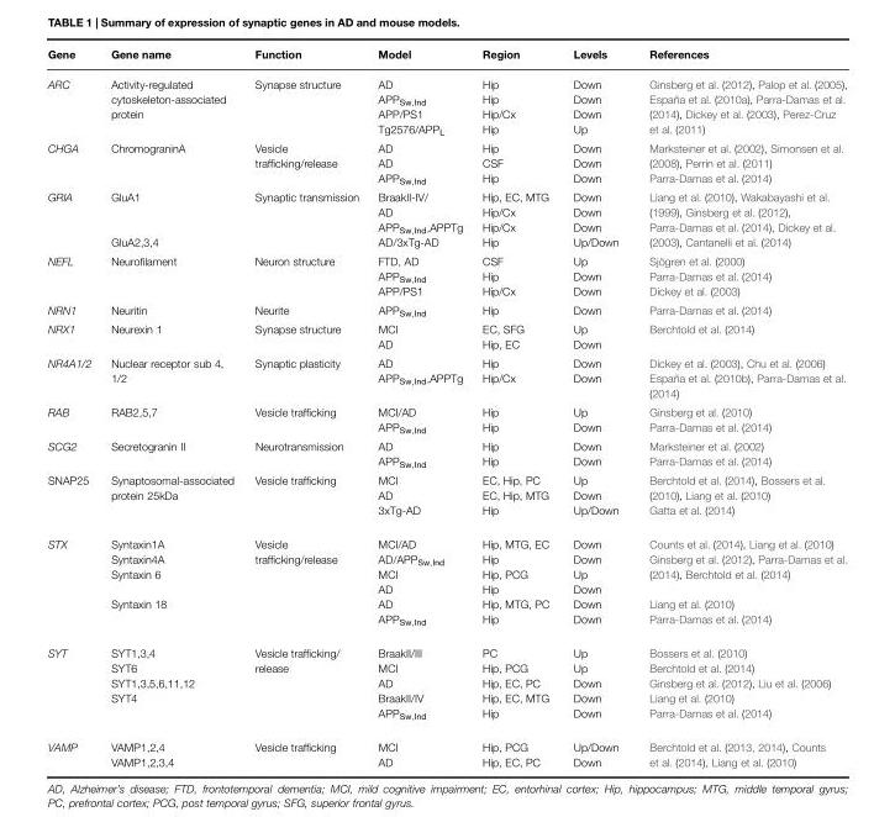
<table><thead><tr><td>Gene</td><td>Gene name</td><td>Function</td><td>Model</td><td>Region</td><td>Levels</td><td>References</td></tr></thead><tbody><tr><td>ARC</td><td>Activity-regulated cytoskeleton-associated protein</td><td>Synapse structure</td><td>AD APP<sub>Sw,Ind</sub> APP/PS1 Tg2576/APP<sub>L</sub></td><td>Hip Hip Hip/Cx Hip</td><td>Down Down Down Up</td><td>Ginsberg et al. (2012), Palop et al. (2005), España et al. (2010a), Parra-Damas et al. (2014), Dickey et al. (2003), Perez-Cruz et al. (2011)</td></tr><tr><td>CHGA</td><td>ChromograninA</td><td>Vesicle trafficking/release</td><td>AD AD APP<sub>Sw,Ind</sub></td><td>Hip CSF Hip</td><td>Down Down Down</td><td>Marksteiner et al. (2002), Simonsen et al. (2008), Perrin et al. (2011) Parra-Damas et al. (2014)</td></tr><tr><td>GRIA</td><td>GluA1 GluA2,3,4</td><td>Synaptic transmission</td><td>BraakII-IV/ AD APP<sub>Sw,Ind</sub>,APPTg AD/3xTg-AD</td><td>Hip, EC, MTG Hip/Cx Hip/Cx Hip</td><td>Down Down Down Up/Down</td><td>Liang et al. (2010), Wakabayashi et al. (1999), Ginsberg et al. (2012), Parra-Damas et al. (2014), Dickey et al. (2003), Cantanelli et al. (2014)</td></tr><tr><td>NEFL</td><td>Neurofilament</td><td>Neuron structure</td><td>FTD, AD APP<sub>Sw,Ind</sub> APP/PS1</td><td>CSF Hip Hip/Cx</td><td>Up Down Down</td><td>Sjögren et al. (2000) Parra-Damas et al. (2014) Dickey et al. (2003)</td></tr><tr><td>NRN1</td><td>Neuritin</td><td>Neurite</td><td>APP<sub>Sw,Ind</sub></td><td>Hip</td><td>Down</td><td>Parra-Damas et al. (2014)</td></tr><tr><td>NRX1</td><td>Neurexin 1</td><td>Synapse structure</td><td>MCI AD</td><td>EC, SFG Hip, EC</td><td>Up Down</td><td>Berchtold et al. (2014)</td></tr><tr><td>NR4A1/2</td><td>Nuclear receptor sub 4, 1/2</td><td>Synaptic plasticity</td><td>AD APP<sub>Sw,Ind</sub>,APPTg</td><td>Hip Hip/Cx</td><td>Down Down</td><td>Dickey et al. (2003), Chu et al. (2006) España et al. (2010b), Parra-Damas et al. (2014)</td></tr><tr><td>RAB</td><td>RAB2,5,7</td><td>Vesicle trafficking</td><td>MCI/AD APP<sub>Sw,Ind</sub></td><td>Hip Hip</td><td>Up Down</td><td>Ginsberg et al. (2010) Parra-Damas et al. (2014)</td></tr><tr><td>SCG2</td><td>Secretogranin II</td><td>Neurotransmission</td><td>AD APP<sub>Sw,Ind</sub></td><td>Hip Hip</td><td>Down Down</td><td>Marksteiner et al. (2002) Parra-Damas et al. (2014)</td></tr><tr><td>SNAP25</td><td>Synaptosomal-associated protein 25kDa</td><td>Vesicle trafficking</td><td>MCI AD 3xTg-AD</td><td>EC, Hip, PC EC, Hip, MTG Hip</td><td>Up Down Up/Down</td><td>Berchtold et al. (2014), Bossers et al. (2010), Liang et al. (2010) Gatta et al. (2014)</td></tr><tr><td>STX</td><td>Syntaxin1A Syntaxin4A Syntaxin 6 Syntaxin 18</td><td>Vesicle trafficking/release</td><td>MCI/AD AD/APP<sub>Sw,Ind</sub> MCI AD AD APP<sub>Sw,Ind</sub></td><td>Hip, MTG, EC Hip Hip, PCG Hip Hip, MTG, PC Hip</td><td>Down Down Up Down Down Down</td><td>Counts et al. (2014), Liang et al. (2010) Ginsberg et al. (2012), Parra-Damas et al. (2014), Berchtold et al. (2014) Liang et al. (2010) Parra-Damas et al. (2014)</td></tr><tr><td>SYT</td><td>SYT1,3,4 SYT6 SYT1,3,5,6,11,12 SYT4</td><td>Vesicle trafficking/ release</td><td>BraakII/III MCI AD BraakII/IV APP<sub>Sw,Ind</sub></td><td>PC Hip, PCG Hip, EC, PC Hip, EC, MTG Hip</td><td>Up Up Down Down Down</td><td>Bossers et al. (2010) Berchtold et al. (2014) Ginsberg et al. (2012), Liu et al. (2006) Liang et al. (2010) Parra-Damas et al. (2014)</td></tr><tr><td>VAMP</td><td>VAMP1,2,4 VAMP1,2,3,4</td><td>Vesicle trafficking</td><td>MCI AD</td><td>Hip, PCG Hip, EC, PC</td><td>Up/Down Down</td><td>Berchtold et al. (2013, 2014), Counts et al. (2014), Liang et al. (2010)</td></tr></tbody></table>